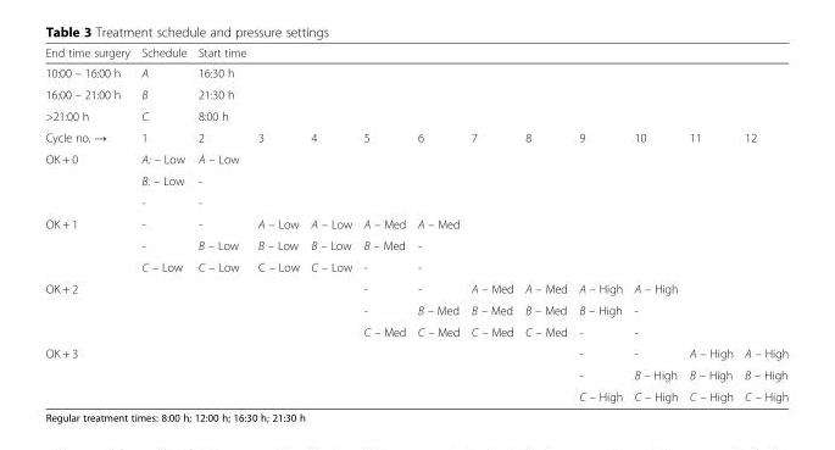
<table><thead><tr><td>End time surgery</td><td>Schedule</td><td>Start time</td><td></td><td></td><td></td><td></td><td></td><td></td><td></td><td></td><td></td><td></td></tr></thead><tbody><tr><td>10:00 – 16:00 h</td><td>A</td><td>16:30 h</td><td></td><td></td><td></td><td></td><td></td><td></td><td></td><td></td><td></td><td></td></tr><tr><td>16:00 – 21:00 h</td><td>B</td><td>21:30 h</td><td></td><td></td><td></td><td></td><td></td><td></td><td></td><td></td><td></td><td></td></tr><tr><td>&gt;21:00 h</td><td>C</td><td>8:00 h</td><td></td><td></td><td></td><td></td><td></td><td></td><td></td><td></td><td></td><td></td></tr><tr><td>Cycle no. →</td><td>1</td><td>2</td><td>3</td><td>4</td><td>5</td><td>6</td><td>7</td><td>8</td><td>9</td><td>10</td><td>11</td><td>12</td></tr><tr><td rowspan="3">OK + 0</td><td>A: – Low</td><td>A – Low</td><td rowspan="3"></td><td rowspan="3"></td><td rowspan="3"></td><td rowspan="3"></td><td rowspan="3"></td><td rowspan="3"></td><td rowspan="3"></td><td rowspan="3"></td><td rowspan="3"></td><td rowspan="3"></td></tr><tr><td>B: – Low</td><td>-</td></tr><tr><td>-</td><td>-</td></tr><tr><td rowspan="3">OK + 1</td><td>-</td><td>-</td><td>A – Low</td><td>A – Low</td><td>A – Med</td><td>A – Med</td><td rowspan="3"></td><td rowspan="3"></td><td rowspan="3"></td><td rowspan="3"></td><td rowspan="3"></td><td rowspan="3"></td></tr><tr><td>-</td><td>B – Low</td><td>B – Low</td><td>B – Low</td><td>B – Med</td><td>-</td></tr><tr><td>C – Low</td><td>C – Low</td><td>C – Low</td><td>C – Low</td><td>-</td><td>-</td></tr><tr><td rowspan="3">OK + 2</td><td rowspan="3"></td><td rowspan="3"></td><td rowspan="3"></td><td rowspan="3"></td><td>-</td><td>-</td><td>A – Med</td><td>A – Med</td><td>A – High</td><td>A – High</td><td rowspan="3"></td><td rowspan="3"></td></tr><tr><td>-</td><td>B – Med</td><td>B – Med</td><td>B – Med</td><td>B – High</td><td>-</td></tr><tr><td>C – Med</td><td>C – Med</td><td>C – Med</td><td>C – Med</td><td>-</td><td>-</td></tr><tr><td rowspan="3">OK + 3</td><td rowspan="3"></td><td rowspan="3"></td><td rowspan="3"></td><td rowspan="3"></td><td rowspan="3"></td><td rowspan="3"></td><td rowspan="3"></td><td rowspan="3"></td><td>-</td><td>-</td><td>A – High</td><td>A – High</td></tr><tr><td>-</td><td>B – High</td><td>B – High</td><td>B – High</td></tr><tr><td>C – High</td><td>C – High</td><td>C – High</td><td>C – High</td></tr></tbody></table>